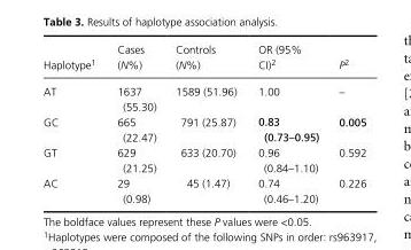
<table><thead><tr><td>Haplotype1</td><td>Cases (N%)</td><td>Controls (N%)</td><td>OR (95% CI)2</td><td>P2</td></tr></thead><tbody><tr><td>AT</td><td>1637 (55.30)</td><td>1589 (51.96)</td><td>1.00</td><td>–</td></tr><tr><td>GC</td><td>665 (22.47)</td><td>791 (25.87)</td><td>0.83 (0.73–0.95)</td><td>0.005</td></tr><tr><td>GT</td><td>629 (21.25)</td><td>633 (20.70)</td><td>0.96 (0.84–1.10)</td><td>0.592</td></tr><tr><td>AC</td><td>29 (0.98)</td><td>45 (1.47)</td><td>0.74 (0.46–1.20)</td><td>0.226</td></tr></tbody></table>